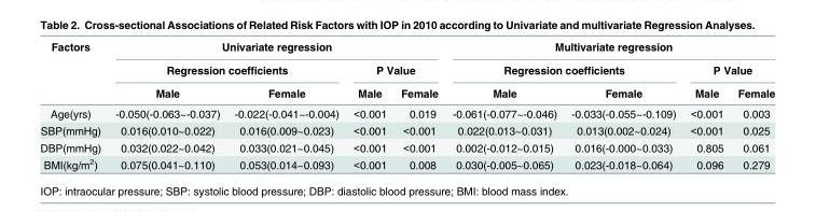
<table><thead><tr><td rowspan="3">Factors</td><td colspan="4">Univariate regression</td><td colspan="4">Multivariate regression</td></tr><tr><td colspan="2">Regression coefficients</td><td colspan="2">P Value</td><td colspan="2">Regression coefficients</td><td colspan="2">P Value</td></tr><tr><td>Male</td><td>Female</td><td>Male</td><td>Female</td><td>Male</td><td>Female</td><td>Male</td><td>Female</td></tr></thead><tbody><tr><td>Age(yrs)</td><td>-0.050(-0.063~-0.037)</td><td>-0.022(-0.041~-0.004)</td><td>&lt;0.001</td><td>0.019</td><td>-0.061(-0.077~-0.046)</td><td>-0.033(-0.055~-0.109)</td><td>&lt;0.001</td><td>0.003</td></tr><tr><td>SBP(mmHg)</td><td>0.016(0.010~0.022)</td><td>0.016(0.009~0.023)</td><td>&lt;0.001</td><td>&lt;0.001</td><td>0.022(0.013~0.031)</td><td>0.013(0.002~0.024)</td><td>&lt;0.001</td><td>0.025</td></tr><tr><td>DBP(mmHg)</td><td>0.032(0.022~0.042)</td><td>0.033(0.021~0.045)</td><td>&lt;0.001</td><td>&lt;0.001</td><td>0.002(-0.012~0.015)</td><td>0.016(-0.000~0.033)</td><td>0.805</td><td>0.061</td></tr><tr><td>BMI(kg/m<sup>2</sup>)</td><td>0.075(0.041~0.110)</td><td>0.053(0.014~0.093)</td><td>&lt;0.001</td><td>0.008</td><td>0.030(-0.005~0.065)</td><td>0.023(-0.018~0.064)</td><td>0.096</td><td>0.279</td></tr></tbody></table>